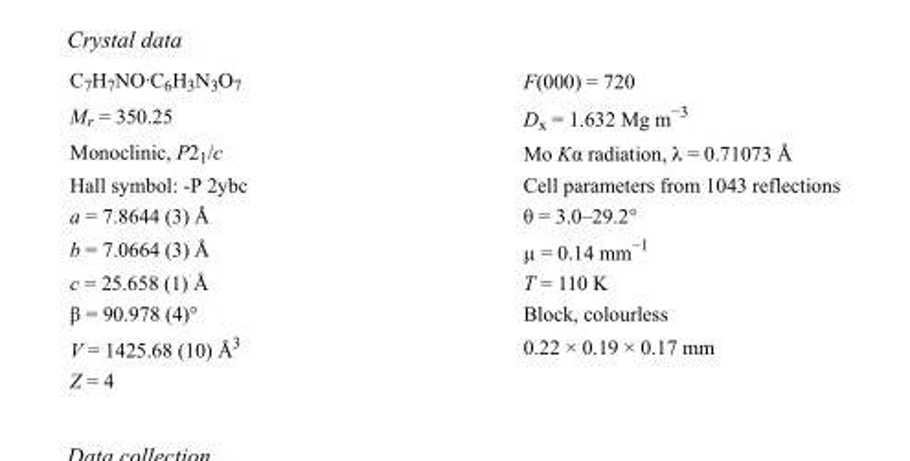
<table><tbody><tr><td>C<sub>7</sub>H<sub>7</sub>NO·C<sub>6</sub>H<sub>3</sub>N<sub>3</sub>O<sub>7</sub></td><td>F(000) = 720</td></tr><tr><td>M<sub>r</sub> = 350.25</td><td>D<sub>x</sub> = 1.632 Mg m<sup>−3</sup></td></tr><tr><td>Monoclinic, P2<sub>1</sub>/c</td><td>Mo Kα radiation, λ = 0.71073 Å</td></tr><tr><td>Hall symbol: -P 2ybc</td><td>Cell parameters from 1043 reflections</td></tr><tr><td>a = 7.8644 (3) Å</td><td>θ = 3.0–29.2°</td></tr><tr><td>b = 7.0664 (3) Å</td><td>µ = 0.14 mm<sup>−1</sup></td></tr><tr><td>c = 25.658 (1) Å</td><td>T = 110 K</td></tr><tr><td>β = 90.978 (4)°</td><td>Block, colourless</td></tr><tr><td>V = 1425.68 (10) Å<sup>3</sup></td><td>0.22 × 0.19 × 0.17 mm</td></tr><tr><td>Z = 4</td><td></td></tr></tbody></table>